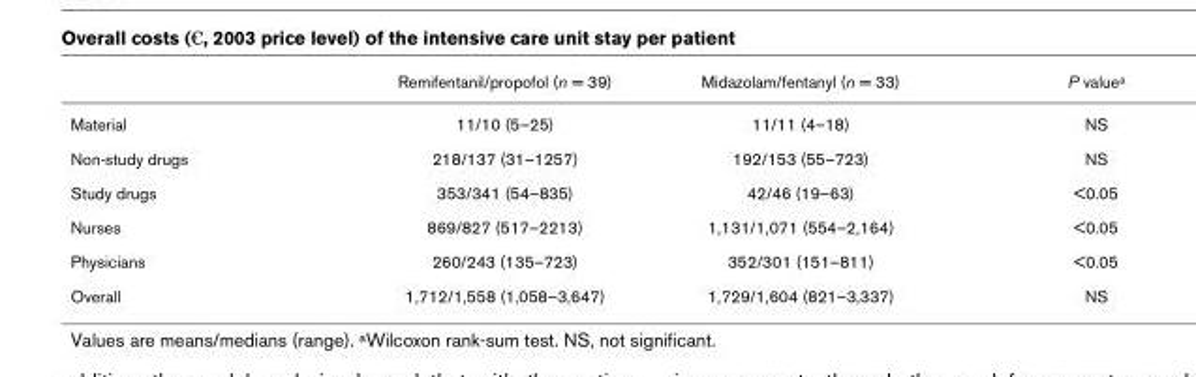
<table><thead><tr><td></td><td>Remifentanil/propofol (n = 39)</td><td>Midazolam/fentanyl (n = 33)</td><td>P valuea</td></tr></thead><tbody><tr><td>Material</td><td>11/10 (5–25)</td><td>11/11 (4–18)</td><td>NS</td></tr><tr><td>Non-study drugs</td><td>218/137 (31–1257)</td><td>192/153 (55–723)</td><td>NS</td></tr><tr><td>Study drugs</td><td>353/341 (54–835)</td><td>42/46 (19–63)</td><td>&lt;0.05</td></tr><tr><td>Nurses</td><td>869/827 (517–2213)</td><td>1,131/1,071 (554–2,164)</td><td>&lt;0.05</td></tr><tr><td>Physicians</td><td>260/243 (135–723)</td><td>352/301 (151–811)</td><td>&lt;0.05</td></tr><tr><td>Overall</td><td>1,712/1,558 (1,058–3,647)</td><td>1,729/1,604 (821–3,337)</td><td>NS</td></tr></tbody></table>